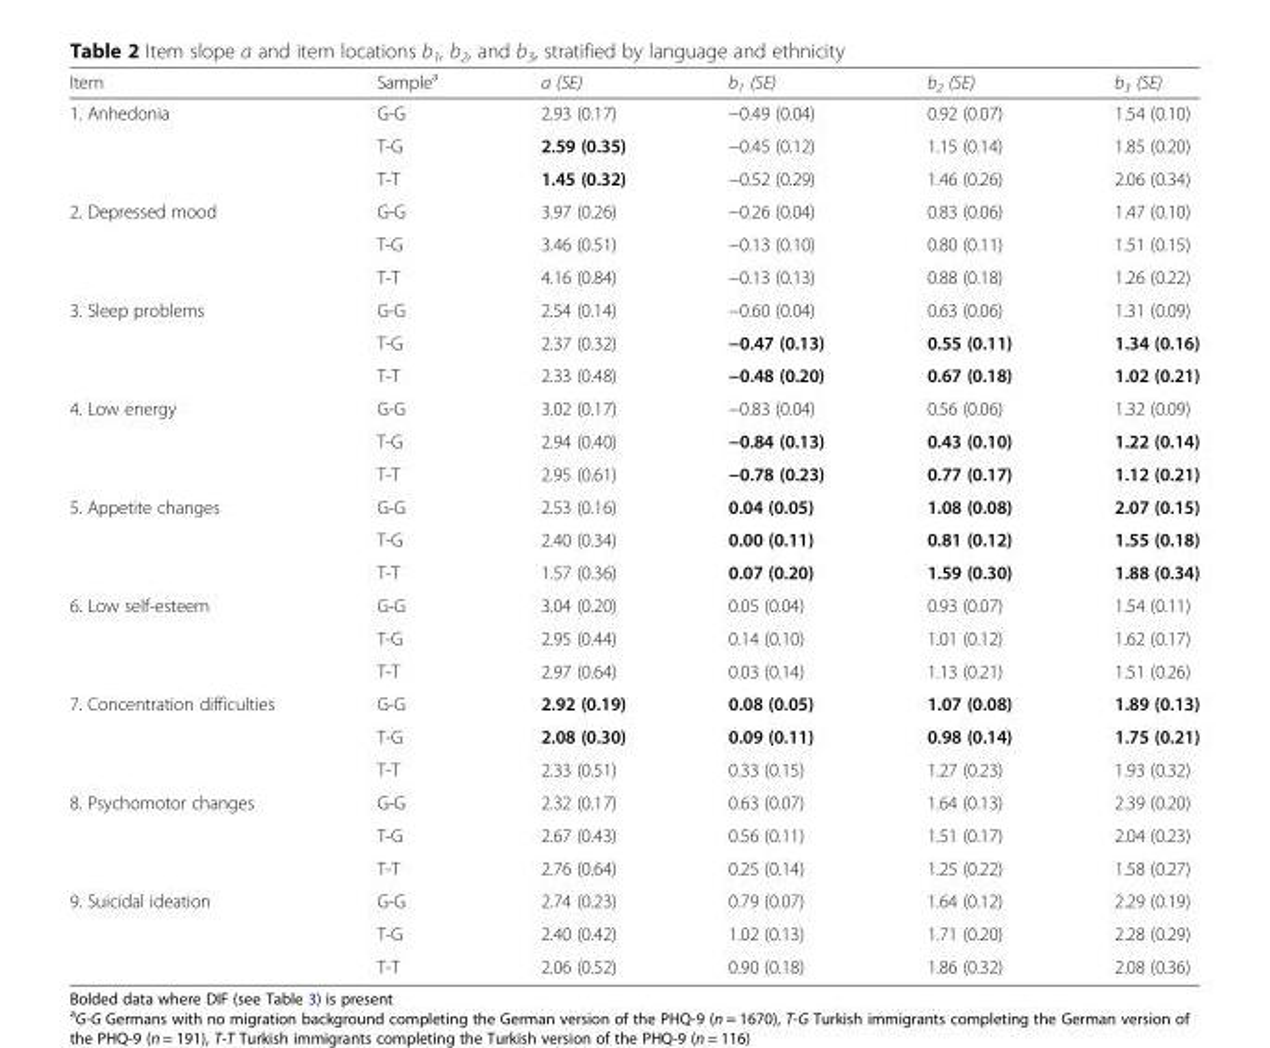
<table><thead><tr><td>Item</td><td>Sample<sup>a</sup></td><td>a (SE)</td><td>b<sub>1</sub> (SE)</td><td>b<sub>2</sub> (SE)</td><td>b<sub>3</sub> (SE)</td></tr></thead><tbody><tr><td rowspan="3">1. Anhedonia</td><td>G-G</td><td>2.93 (0.17)</td><td>−0.49 (0.04)</td><td>0.92 (0.07)</td><td>1.54 (0.10)</td></tr><tr><td>T-G</td><td>2.59 (0.35)</td><td>−0.45 (0.12)</td><td>1.15 (0.14)</td><td>1.85 (0.20)</td></tr><tr><td>T-T</td><td>1.45 (0.32)</td><td>−0.52 (0.29)</td><td>1.46 (0.26)</td><td>2.06 (0.34)</td></tr><tr><td rowspan="3">2. Depressed mood</td><td>G-G</td><td>3.97 (0.26)</td><td>−0.26 (0.04)</td><td>0.83 (0.06)</td><td>1.47 (0.10)</td></tr><tr><td>T-G</td><td>3.46 (0.51)</td><td>−0.13 (0.10)</td><td>0.80 (0.11)</td><td>1.51 (0.15)</td></tr><tr><td>T-T</td><td>4.16 (0.84)</td><td>−0.13 (0.13)</td><td>0.88 (0.18)</td><td>1.26 (0.22)</td></tr><tr><td rowspan="3">3. Sleep problems</td><td>G-G</td><td>2.54 (0.14)</td><td>−0.60 (0.04)</td><td>0.63 (0.06)</td><td>1.31 (0.09)</td></tr><tr><td>T-G</td><td>2.37 (0.32)</td><td>−0.47 (0.13)</td><td>0.55 (0.11)</td><td>1.34 (0.16)</td></tr><tr><td>T-T</td><td>2.33 (0.48)</td><td>−0.48 (0.20)</td><td>0.67 (0.18)</td><td>1.02 (0.21)</td></tr><tr><td rowspan="3">4. Low energy</td><td>G-G</td><td>3.02 (0.17)</td><td>−0.83 (0.04)</td><td>0.56 (0.06)</td><td>1.32 (0.09)</td></tr><tr><td>T-G</td><td>2.94 (0.40)</td><td>−0.84 (0.13)</td><td>0.43 (0.10)</td><td>1.22 (0.14)</td></tr><tr><td>T-T</td><td>2.95 (0.61)</td><td>−0.78 (0.23)</td><td>0.77 (0.17)</td><td>1.12 (0.21)</td></tr><tr><td rowspan="3">5. Appetite changes</td><td>G-G</td><td>2.53 (0.16)</td><td>0.04 (0.05)</td><td>1.08 (0.08)</td><td>2.07 (0.15)</td></tr><tr><td>T-G</td><td>2.40 (0.34)</td><td>0.00 (0.11)</td><td>0.81 (0.12)</td><td>1.55 (0.18)</td></tr><tr><td>T-T</td><td>1.57 (0.36)</td><td>0.07 (0.20)</td><td>1.59 (0.30)</td><td>1.88 (0.34)</td></tr><tr><td rowspan="3">6. Low self-esteem</td><td>G-G</td><td>3.04 (0.20)</td><td>0.05 (0.04)</td><td>0.93 (0.07)</td><td>1.54 (0.11)</td></tr><tr><td>T-G</td><td>2.95 (0.44)</td><td>0.14 (0.10)</td><td>1.01 (0.12)</td><td>1.62 (0.17)</td></tr><tr><td>T-T</td><td>2.97 (0.64)</td><td>0.03 (0.14)</td><td>1.13 (0.21)</td><td>1.51 (0.26)</td></tr><tr><td rowspan="3">7. Concentration difficulties</td><td>G-G</td><td>2.92 (0.19)</td><td>0.08 (0.05)</td><td>1.07 (0.08)</td><td>1.89 (0.13)</td></tr><tr><td>T-G</td><td>2.08 (0.30)</td><td>0.09 (0.11)</td><td>0.98 (0.14)</td><td>1.75 (0.21)</td></tr><tr><td>T-T</td><td>2.33 (0.51)</td><td>0.33 (0.15)</td><td>1.27 (0.23)</td><td>1.93 (0.32)</td></tr><tr><td rowspan="3">8. Psychomotor changes</td><td>G-G</td><td>2.32 (0.17)</td><td>0.63 (0.07)</td><td>1.64 (0.13)</td><td>2.39 (0.20)</td></tr><tr><td>T-G</td><td>2.67 (0.43)</td><td>0.56 (0.11)</td><td>1.51 (0.17)</td><td>2.04 (0.23)</td></tr><tr><td>T-T</td><td>2.76 (0.64)</td><td>0.25 (0.14)</td><td>1.25 (0.22)</td><td>1.58 (0.27)</td></tr><tr><td rowspan="3">9. Suicidal ideation</td><td>G-G</td><td>2.74 (0.23)</td><td>0.79 (0.07)</td><td>1.64 (0.12)</td><td>2.29 (0.19)</td></tr><tr><td>T-G</td><td>2.40 (0.42)</td><td>1.02 (0.13)</td><td>1.71 (0.20)</td><td>2.28 (0.29)</td></tr><tr><td>T-T</td><td>2.06 (0.52)</td><td>0.90 (0.18)</td><td>1.86 (0.32)</td><td>2.08 (0.36)</td></tr></tbody></table>